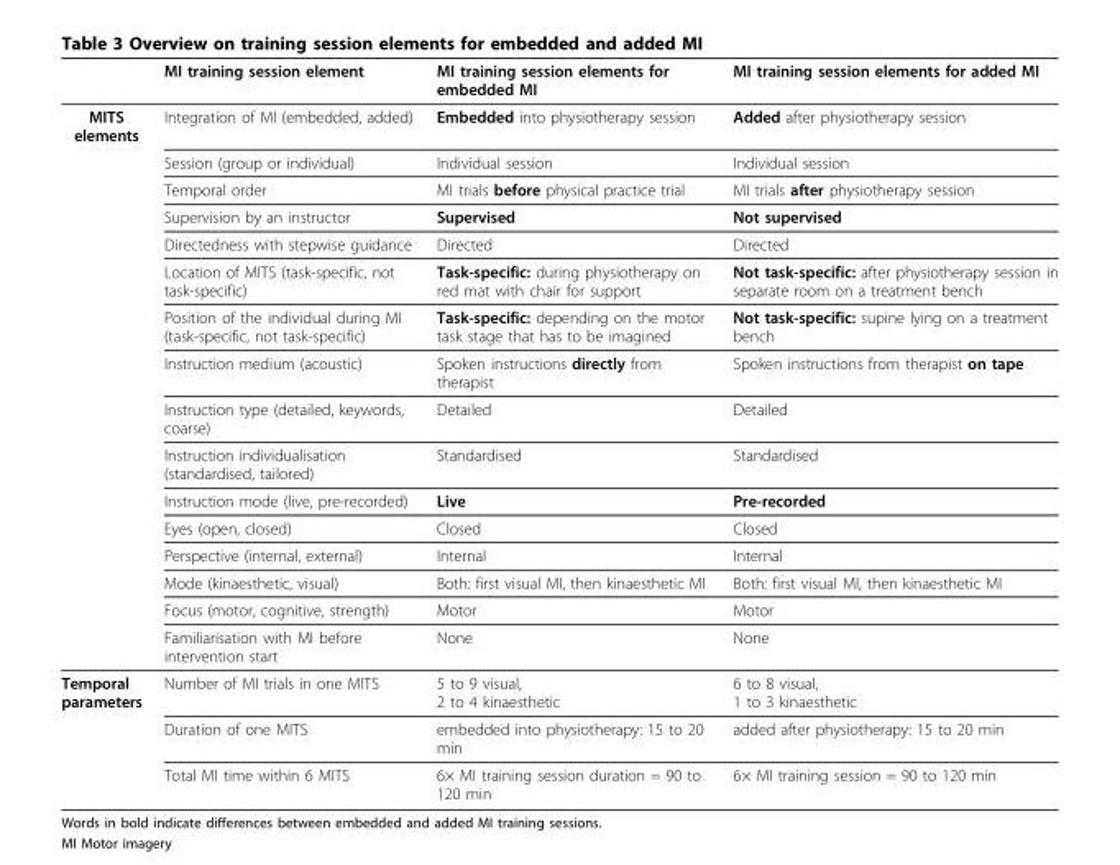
<table><thead><tr><td></td><td>MI training session element</td><td>MI training session elements for embedded MI</td><td>MI training session elements for added MI</td></tr></thead><tbody><tr><td rowspan="16">MITS elements</td><td>Integration of MI (embedded, added)</td><td>Embedded into physiotherapy session</td><td>Added after physiotherapy session</td></tr><tr><td>Session (group or individual)</td><td>Individual session</td><td>Individual session</td></tr><tr><td>Temporal order</td><td>MI trials before physical practice trial</td><td>MI trials after physiotherapy session</td></tr><tr><td>Supervision by an instructor</td><td>Supervised</td><td>Not supervised</td></tr><tr><td>Directedness with stepwise guidance</td><td>Directed</td><td>Directed</td></tr><tr><td>Location of MITS (task-specific, not task-specific)</td><td>Task-specific: during physiotherapy on red mat with chair for support</td><td>Not task-specific: after physiotherapy session in separate room on a treatment bench</td></tr><tr><td>Position of the individual during MI (task-specific, not task-specific)</td><td>Task-specific: depending on the motor task stage that has to be imagined</td><td>Not task-specific: supine lying on a treatment bench</td></tr><tr><td>Instruction medium (acoustic)</td><td>Spoken instructions directly from therapist</td><td>Spoken instructions from therapist on tape</td></tr><tr><td>Instruction type (detailed, keywords, coarse)</td><td>Detailed</td><td>Detailed</td></tr><tr><td>Instruction individualisation (standardised, tailored)</td><td>Standardised</td><td>Standardised</td></tr><tr><td>Instruction mode (live, pre-recorded)</td><td>Live</td><td>Pre-recorded</td></tr><tr><td>Eyes (open, closed)</td><td>Closed</td><td>Closed</td></tr><tr><td>Perspective (internal, external)</td><td>Internal</td><td>Internal</td></tr><tr><td>Mode (kinaesthetic, visual)</td><td>Both: first visual MI, then kinaesthetic MI</td><td>Both: first visual MI, then kinaesthetic MI</td></tr><tr><td>Focus (motor, cognitive, strength)</td><td>Motor</td><td>Motor</td></tr><tr><td>Familiarisation with MI before intervention start</td><td>None</td><td>None</td></tr><tr><td rowspan="3">Temporal parameters</td><td>Number of MI trials in one MITS</td><td>5 to 9 visual, 2 to 4 kinaesthetic</td><td>6 to 8 visual, 1 to 3 kinaesthetic</td></tr><tr><td>Duration of one MITS</td><td>embedded into physiotherapy: 15 to 20 min</td><td>added after physiotherapy: 15 to 20 min</td></tr><tr><td>Total MI time within 6 MITS</td><td>6× MI training session duration = 90 to 120 min</td><td>6× MI training session = 90 to 120 min</td></tr></tbody></table>